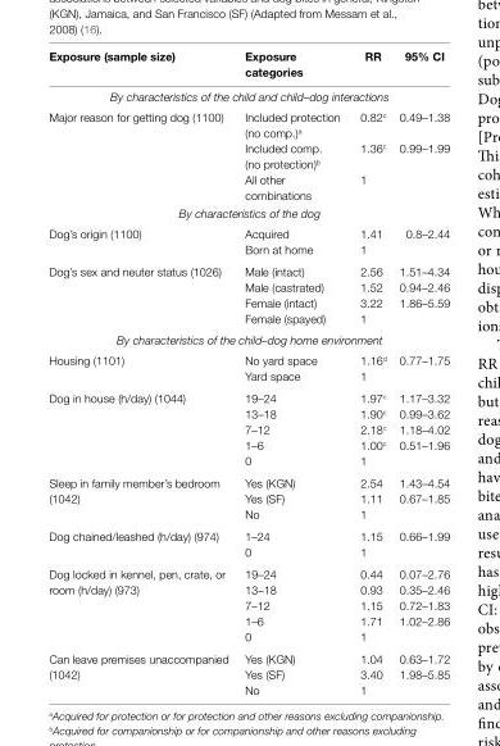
<table><thead><tr><td>exposure (sample size)</td><td>exposure categories</td><td>rr</td><td>95% ci</td></tr></thead><tbody><tr><td colspan="4">By characteristics of the child and child–dog interactions</td></tr><tr><td rowspan="3">Major reason for getting dog (1100)</td><td>Included protection (no comp.)<sup>a</sup></td><td>0.82<sup>c</sup></td><td>0.49–1.38</td></tr><tr><td>Included comp. (no protection)<sup>b</sup></td><td>1.36<sup>c</sup></td><td>0.99–1.99</td></tr><tr><td>All other combinations</td><td>1</td><td></td></tr><tr><td colspan="4">By characteristics of the dog</td></tr><tr><td rowspan="2">Dog’s origin (1100)</td><td>Acquired</td><td>1.41</td><td>0.8–2.44</td></tr><tr><td>Born at home</td><td>1</td><td></td></tr><tr><td rowspan="4">Dog’s sex and neuter status (1026)</td><td>Male (intact)</td><td>2.56</td><td>1.51–4.34</td></tr><tr><td>Male (castrated)</td><td>1.52</td><td>0.94–2.46</td></tr><tr><td>Female (intact)</td><td>3.22</td><td>1.86–5.59</td></tr><tr><td>Female (spayed)</td><td>1</td><td></td></tr><tr><td colspan="4">By characteristics of the child–dog home environment</td></tr><tr><td rowspan="2">Housing (1101)</td><td>No yard space</td><td>1.16<sup>d</sup></td><td>0.77–1.75</td></tr><tr><td>Yard space</td><td>1</td><td></td></tr><tr><td rowspan="5">Dog in house (h/day) (1044)</td><td>19–24</td><td>1.97<sup>c</sup></td><td>1.17–3.32</td></tr><tr><td>13–18</td><td>1.90<sup>c</sup></td><td>0.99–3.62</td></tr><tr><td>7–12</td><td>2.18<sup>c</sup></td><td>1.18–4.02</td></tr><tr><td>1–6</td><td>1.00<sup>c</sup></td><td>0.51–1.96</td></tr><tr><td>0</td><td>1</td><td></td></tr><tr><td rowspan="3">Sleep in family member’s bedroom (1042)</td><td>Yes (KGN)</td><td>2.54</td><td>1.43–4.54</td></tr><tr><td>Yes (SF)</td><td>1.11</td><td>0.67–1.85</td></tr><tr><td>No</td><td>1</td><td></td></tr><tr><td rowspan="2">Dog chained/leashed (h/day) (974)</td><td>1–24</td><td>1.15</td><td>0.66–1.99</td></tr><tr><td>0</td><td>1</td><td></td></tr><tr><td rowspan="5">Dog locked in kennel, pen, crate, or room (h/day) (973)</td><td>19–24</td><td>0.44</td><td>0.07–2.76</td></tr><tr><td>13–18</td><td>0.93</td><td>0.35–2.46</td></tr><tr><td>7–12</td><td>1.15</td><td>0.72–1.83</td></tr><tr><td>1–6</td><td>1.71</td><td>1.02–2.86</td></tr><tr><td>0</td><td>1</td><td></td></tr><tr><td rowspan="3">Can leave premises unaccompanied (1042)</td><td>Yes (KGN)</td><td>1.04</td><td>0.63–1.72</td></tr><tr><td>Yes (SF)</td><td>3.40</td><td>1.98–5.85</td></tr><tr><td>No</td><td>1</td><td></td></tr></tbody></table>